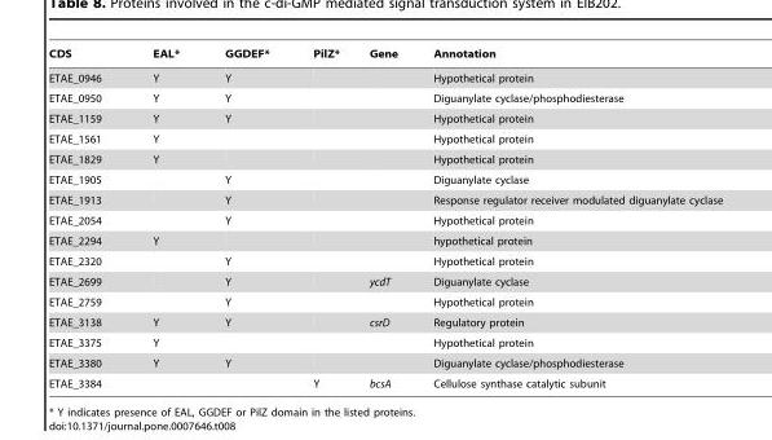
<table><thead><tr><td>CDS</td><td>EAL*</td><td>GGDEF*</td><td>PilZ*</td><td>Gene</td><td>Annotation</td></tr></thead><tbody><tr><td>ETAE_0946</td><td>Y</td><td>Y</td><td></td><td></td><td>Hypothetical protein</td></tr><tr><td>ETAE_0950</td><td>Y</td><td>Y</td><td></td><td></td><td>Diguanylate cyclase/phosphodiesterase</td></tr><tr><td>ETAE_1159</td><td>Y</td><td>Y</td><td></td><td></td><td>Hypothetical protein</td></tr><tr><td>ETAE_1561</td><td>Y</td><td></td><td></td><td></td><td>Hypothetical protein</td></tr><tr><td>ETAE_1829</td><td>Y</td><td></td><td></td><td></td><td>Hypothetical protein</td></tr><tr><td>ETAE_1905</td><td></td><td>Y</td><td></td><td></td><td>Diguanylate cyclase</td></tr><tr><td>ETAE_1913</td><td></td><td>Y</td><td></td><td></td><td>Response regulator receiver modulated diguanylate cyclase</td></tr><tr><td>ETAE_2054</td><td></td><td>Y</td><td></td><td></td><td>Hypothetical protein</td></tr><tr><td>ETAE_2294</td><td>Y</td><td></td><td></td><td></td><td>hypothetical protein</td></tr><tr><td>ETAE_2320</td><td></td><td>Y</td><td></td><td></td><td>Hypothetical protein</td></tr><tr><td>ETAE_2699</td><td></td><td>Y</td><td></td><td>ycdT</td><td>Diguanylate cyclase</td></tr><tr><td>ETAE_2759</td><td></td><td>Y</td><td></td><td></td><td>Hypothetical protein</td></tr><tr><td>ETAE_3138</td><td>Y</td><td>Y</td><td></td><td>csrD</td><td>Regulatory protein</td></tr><tr><td>ETAE_3375</td><td>Y</td><td></td><td></td><td></td><td>Hypothetical protein</td></tr><tr><td>ETAE_3380</td><td>Y</td><td>Y</td><td></td><td></td><td>Diguanylate cyclase/phosphodiesterase</td></tr><tr><td>ETAE_3384</td><td></td><td></td><td>Y</td><td>bcsA</td><td>Cellulose synthase catalytic subunit</td></tr></tbody></table>